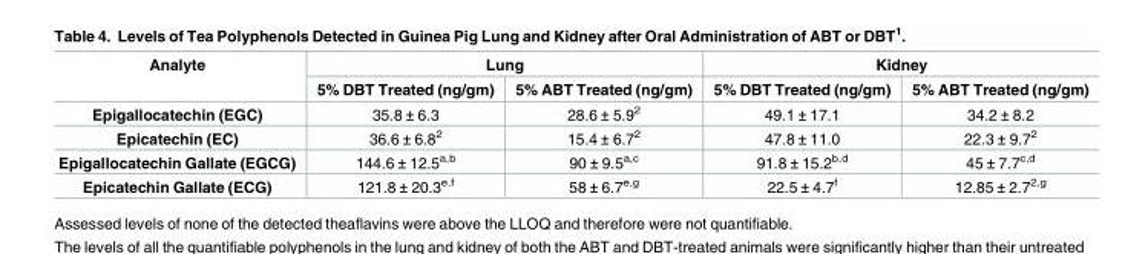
<table><thead><tr><td rowspan="2">Analyte</td><td colspan="2">Lung</td><td colspan="2">Kidney</td></tr><tr><td>5% DBT Treated (ng/gm)</td><td>5% ABT Treated (ng/gm)</td><td>5% DBT Treated (ng/gm)</td><td>5% ABT Treated (ng/gm)</td></tr></thead><tbody><tr><td>Epigallocatechin (EGC)</td><td>35.8 ± 6.3</td><td>28.6 ± 5.9<sup>2</sup></td><td>49.1 ± 17.1</td><td>34.2 ± 8.2</td></tr><tr><td>Epicatechin (EC)</td><td>36.6 ± 6.8<sup>2</sup></td><td>15.4 ± 6.7<sup>2</sup></td><td>47.8 ± 11.0</td><td>22.3 ± 9.7<sup>2</sup></td></tr><tr><td>Epigallocatechin Gallate (EGCG)</td><td>144.6 ± 12.5<sup>a,b</sup></td><td>90 ± 9.5<sup>a,c</sup></td><td>91.8 ± 15.2<sup>b,d</sup></td><td>45 ± 7.7<sup>c,d</sup></td></tr><tr><td>Epicatechin Gallate (ECG)</td><td>121.8 ± 20.3<sup>e,f</sup></td><td>58 ± 6.7<sup>e,g</sup></td><td>22.5 ± 4.7<sup>f</sup></td><td>12.85 ± 2.7<sup>2,g</sup></td></tr></tbody></table>